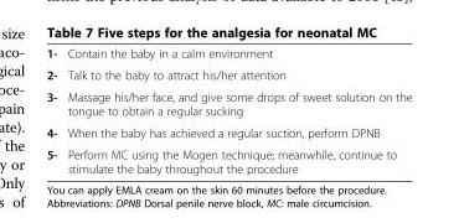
<table><tbody><tr><td>1-</td><td>Contain the baby in a calm environment</td></tr><tr><td>2-</td><td>Talk to the baby to attract his/her attention</td></tr><tr><td>3-</td><td>Massage his/her face, and give some drops of sweet solution on the tongue to obtain a regular sucking</td></tr><tr><td>4-</td><td>When the baby has achieved a regular suction, perform DPNB</td></tr><tr><td>5-</td><td>Perform MC using the Mogen technique; meanwhile, continue to stimulate the baby throughout the procedure</td></tr></tbody></table>